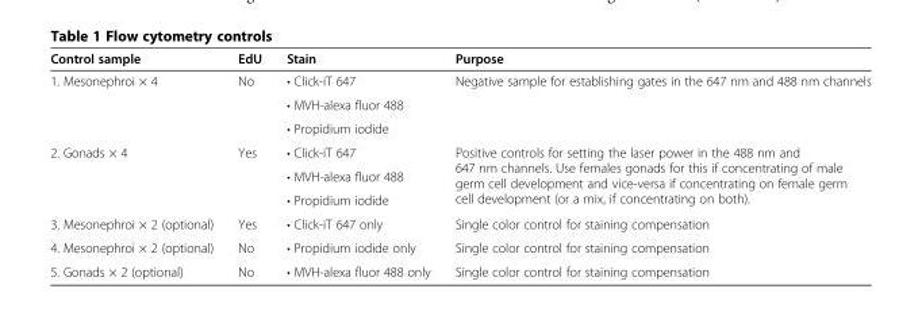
<table><thead><tr><td>Control sample</td><td>EdU</td><td>Stain</td><td>Purpose</td></tr></thead><tbody><tr><td rowspan="3">1. Mesonephroi × 4</td><td rowspan="3">No</td><td>• Click-iT 647</td><td rowspan="3">Negative sample for establishing gates in the 647 nm and 488 nm channels</td></tr><tr><td>• MVH-alexa fluor 488</td></tr><tr><td>• Propidium iodide</td></tr><tr><td rowspan="3">2. Gonads × 4</td><td rowspan="3">Yes</td><td>• Click-iT 647</td><td rowspan="3">Positive controls for setting the laser power in the 488 nm and 647 nm channels. Use females gonads for this if concentrating of male germ cell development and vice-versa if concentrating on female germ cell development (or a mix, if concentrating on both).</td></tr><tr><td>• MVH-alexa fluor 488</td></tr><tr><td>• Propidium iodide</td></tr><tr><td>3. Mesonephroi × 2 (optional)</td><td>Yes</td><td>• Click-iT 647 only</td><td>Single color control for staining compensation</td></tr><tr><td>4. Mesonephroi × 2 (optional)</td><td>No</td><td>• Propidium iodide only</td><td>Single color control for staining compensation</td></tr><tr><td>5. Gonads × 2 (optional)</td><td>No</td><td>• MVH-alexa fluor 488 only</td><td>Single color control for staining compensation</td></tr></tbody></table>